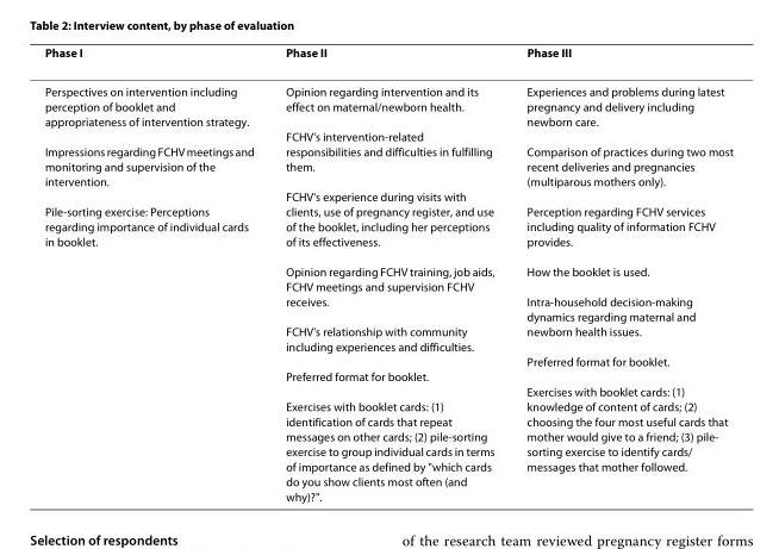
<table><thead><tr><td>Phase I</td><td>Phase II</td><td>Phase III</td></tr></thead><tbody><tr><td>Perspectives on intervention including perception of booklet and appropriateness of intervention strategy. Impressions regarding FCHV meetings and monitoring and supervision of the intervention. Pile-sorting exercise: Perceptions regarding importance of individual cards in booklet.</td><td>Opinion regarding intervention and its effect on maternal/newborn health. FCHV&#x27;s intervention-related responsibilities and difficulties in fulfilling them. FCHV&#x27;s experience during visits with clients, use of pregnancy register, and use of the booklet, including her perceptions of its effectiveness. Opinion regarding FCHV training, job aids, FCHV meetings and supervision FCHV receives. FCHV&#x27;s relationship with community including experiences and difficulties. Preferred format for booklet. Exercises with booklet cards: (1) identification of cards that repeat messages on other cards; (2) pile-sorting exercise to group individual cards in terms of importance as defined by &quot;which cards do you show clients most often (and why)?&quot;.</td><td>Experiences and problems during latest pregnancy and delivery including newborn care. Comparison of practices during two most recent deliveries and pregnancies (multiparous mothers only). Perception regarding FCHV services including quality of information FCHV provides. How the booklet is used. Intra-household decision-making dynamics regarding maternal and newborn health issues. Preferred format for booklet. Exercises with booklet cards: (1) knowledge of content of cards; (2) choosing the four most useful cards that mother would give to a friend; (3) pile- sorting exercise to identify cards/ messages that mother followed.</td></tr></tbody></table>